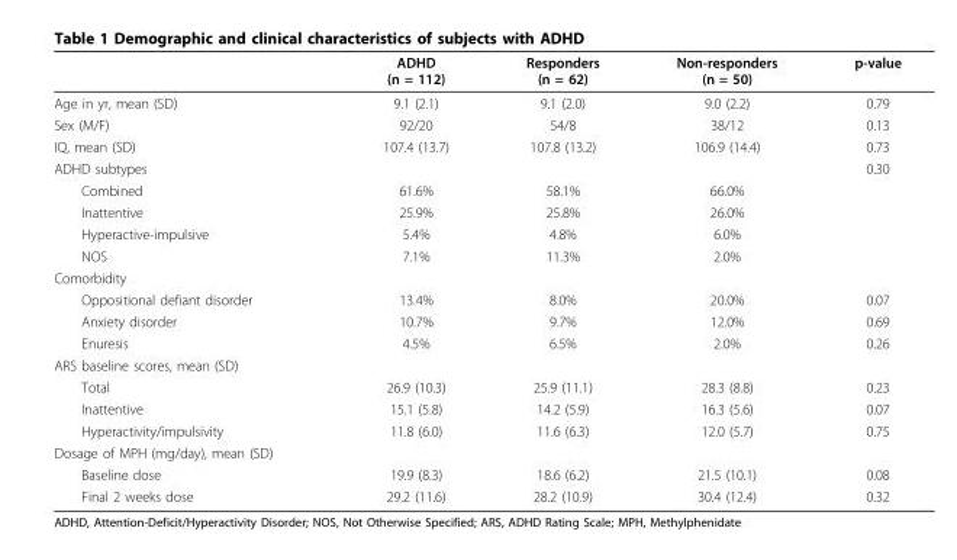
<table><thead><tr><td></td><td>ADHD (n = 112)</td><td>Responders (n = 62)</td><td>Non-responders (n = 50)</td><td>p-value</td></tr></thead><tbody><tr><td>Age in yr, mean (SD)</td><td>9.1 (2.1)</td><td>9.1 (2.0)</td><td>9.0 (2.2)</td><td>0.79</td></tr><tr><td>Sex (M/F)</td><td>92/20</td><td>54/8</td><td>38/12</td><td>0.13</td></tr><tr><td>IQ, mean (SD)</td><td>107.4 (13.7)</td><td>107.8 (13.2)</td><td>106.9 (14.4)</td><td>0.73</td></tr><tr><td>ADHD subtypes</td><td></td><td></td><td></td><td>0.30</td></tr><tr><td>Combined</td><td>61.6%</td><td>58.1%</td><td>66.0%</td><td></td></tr><tr><td>Inattentive</td><td>25.9%</td><td>25.8%</td><td>26.0%</td><td></td></tr><tr><td>Hyperactive-impulsive</td><td>5.4%</td><td>4.8%</td><td>6.0%</td><td></td></tr><tr><td>NOS</td><td>7.1%</td><td>11.3%</td><td>2.0%</td><td></td></tr><tr><td colspan="5">Comorbidity</td></tr><tr><td>Oppositional defiant disorder</td><td>13.4%</td><td>8.0%</td><td>20.0%</td><td>0.07</td></tr><tr><td>Anxiety disorder</td><td>10.7%</td><td>9.7%</td><td>12.0%</td><td>0.69</td></tr><tr><td>Enuresis</td><td>4.5%</td><td>6.5%</td><td>2.0%</td><td>0.26</td></tr><tr><td colspan="5">ARS baseline scores, mean (SD)</td></tr><tr><td>Total</td><td>26.9 (10.3)</td><td>25.9 (11.1)</td><td>28.3 (8.8)</td><td>0.23</td></tr><tr><td>Inattentive</td><td>15.1 (5.8)</td><td>14.2 (5.9)</td><td>16.3 (5.6)</td><td>0.07</td></tr><tr><td>Hyperactivity/impulsivity</td><td>11.8 (6.0)</td><td>11.6 (6.3)</td><td>12.0 (5.7)</td><td>0.75</td></tr><tr><td colspan="5">Dosage of MPH (mg/day), mean (SD)</td></tr><tr><td>Baseline dose</td><td>19.9 (8.3)</td><td>18.6 (6.2)</td><td>21.5 (10.1)</td><td>0.08</td></tr><tr><td>Final 2 weeks dose</td><td>29.2 (11.6)</td><td>28.2 (10.9)</td><td>30.4 (12.4)</td><td>0.32</td></tr></tbody></table>